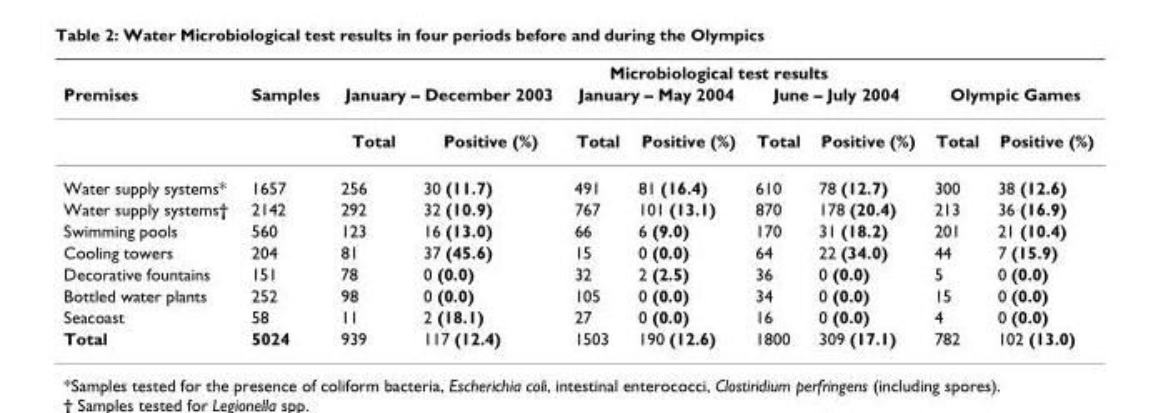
<table><thead><tr><td rowspan="3">Premises</td><td rowspan="3">Samples</td><td colspan="8">Microbiological test results</td></tr><tr><td colspan="2">January – December 2003</td><td colspan="2">January – May 2004</td><td colspan="2">June – July 2004</td><td colspan="2">Olympic Games</td></tr><tr><td>Total</td><td>Positive (%)</td><td>Total</td><td>Positive (%)</td><td>Total</td><td>Positive (%)</td><td>Total</td><td>Positive (%)</td></tr></thead><tbody><tr><td>Water supply systems*</td><td>1657</td><td>256</td><td>30 (11.7)</td><td>491</td><td>81 (16.4)</td><td>610</td><td>78 (12.7)</td><td>300</td><td>38 (12.6)</td></tr><tr><td>Water supply systems†</td><td>2142</td><td>292</td><td>32 (10.9)</td><td>767</td><td>101 (13.1)</td><td>870</td><td>178 (20.4)</td><td>213</td><td>36 (16.9)</td></tr><tr><td>Swimming pools</td><td>560</td><td>123</td><td>16 (13.0)</td><td>66</td><td>6 (9.0)</td><td>170</td><td>31 (18.2)</td><td>201</td><td>21 (10.4)</td></tr><tr><td>Cooling towers</td><td>204</td><td>81</td><td>37 (45.6)</td><td>15</td><td>0 (0.0)</td><td>64</td><td>22 (34.0)</td><td>44</td><td>7 (15.9)</td></tr><tr><td>Decorative fountains</td><td>151</td><td>78</td><td>0 (0.0)</td><td>32</td><td>2 (2.5)</td><td>36</td><td>0 (0.0)</td><td>5</td><td>0 (0.0)</td></tr><tr><td>Bottled water plants</td><td>252</td><td>98</td><td>0 (0.0)</td><td>105</td><td>0 (0.0)</td><td>34</td><td>0 (0.0)</td><td>15</td><td>0 (0.0)</td></tr><tr><td>Seacoast</td><td>58</td><td>11</td><td>2 (18.1)</td><td>27</td><td>0 (0.0)</td><td>16</td><td>0 (0.0)</td><td>4</td><td>0 (0.0)</td></tr><tr><td>Total</td><td>5024</td><td>939</td><td>117 (12.4)</td><td>1503</td><td>190 (12.6)</td><td>1800</td><td>309 (17.1)</td><td>782</td><td>102 (13.0)</td></tr></tbody></table>